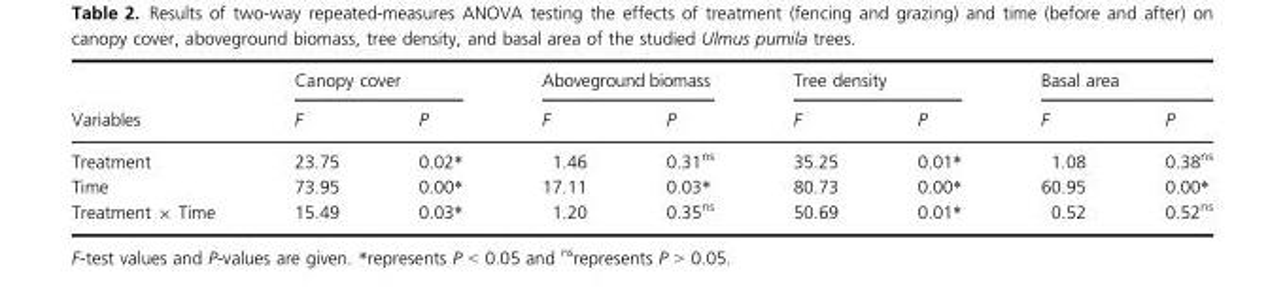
<table><thead><tr><td rowspan="2">Variables</td><td colspan="2">Canopy cover</td><td colspan="2">Aboveground biomass</td><td colspan="2">Tree density</td><td colspan="2">Basal area</td></tr><tr><td>F</td><td>P</td><td>F</td><td>P</td><td>F</td><td>P</td><td>F</td><td>P</td></tr></thead><tbody><tr><td>Treatment</td><td>23.75</td><td>0.02*</td><td>1.46</td><td>0.31<sup>ns</sup></td><td>35.25</td><td>0.01*</td><td>1.08</td><td>0.38<sup>ns</sup></td></tr><tr><td>Time</td><td>73.95</td><td>0.00*</td><td>17.11</td><td>0.03*</td><td>80.73</td><td>0.00*</td><td>60.95</td><td>0.00*</td></tr><tr><td>Treatment × Time</td><td>15.49</td><td>0.03*</td><td>1.20</td><td>0.35<sup>ns</sup></td><td>50.69</td><td>0.01*</td><td>0.52</td><td>0.52<sup>ns</sup></td></tr></tbody></table>